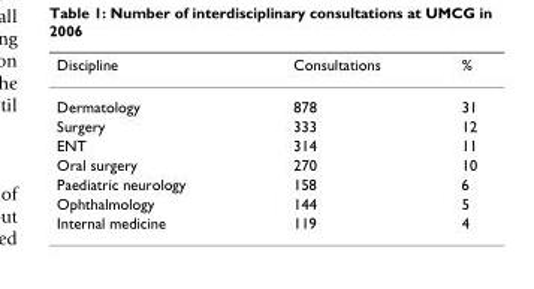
<table><thead><tr><td>Discipline</td><td>Consultations</td><td>%</td></tr></thead><tbody><tr><td>Dermatology</td><td>878</td><td>31</td></tr><tr><td>Surgery</td><td>333</td><td>12</td></tr><tr><td>ENT</td><td>314</td><td>11</td></tr><tr><td>Oral surgery</td><td>270</td><td>10</td></tr><tr><td>Paediatric neurology</td><td>158</td><td>6</td></tr><tr><td>Ophthalmology</td><td>144</td><td>5</td></tr><tr><td>Internal medicine</td><td>119</td><td>4</td></tr></tbody></table>